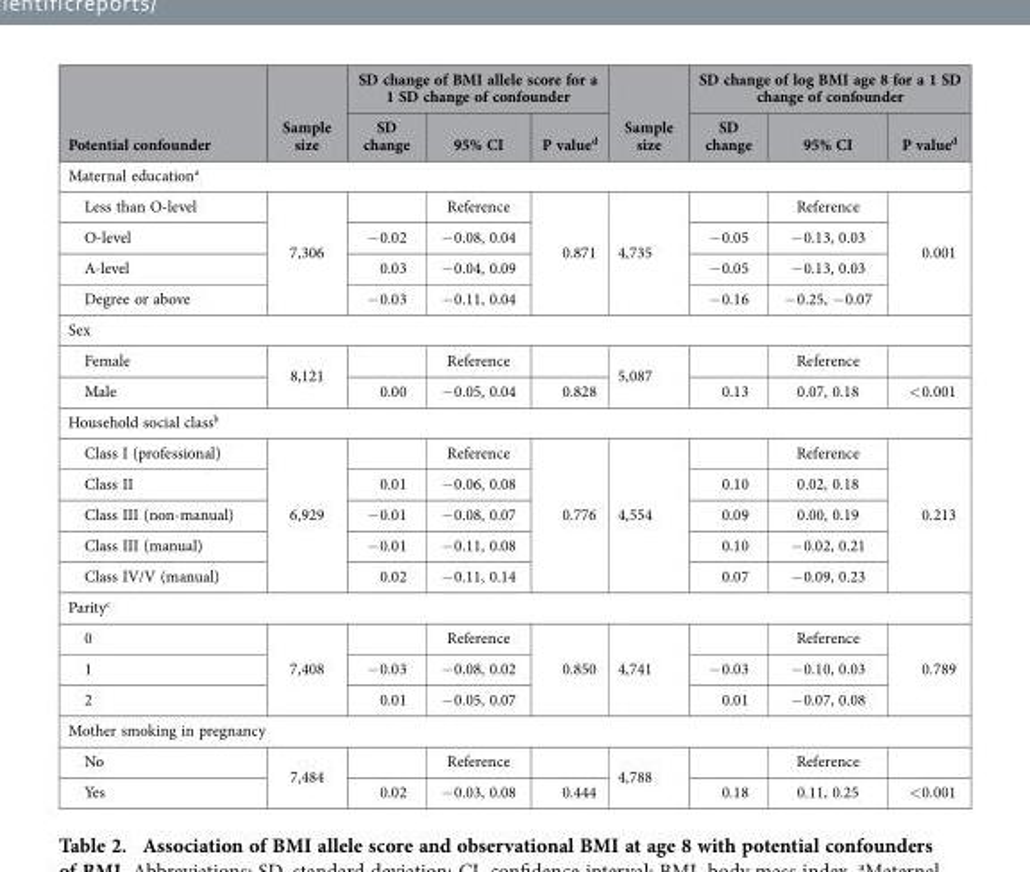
<table><thead><tr><td rowspan="2">Potential confounder</td><td rowspan="2">Sample size</td><td colspan="3">SD change of BMI allele score for a 1 SD change of confounder</td><td rowspan="2">Sample size</td><td colspan="3">SD change of log BMI age 8 for a 1 SD change of confounder</td></tr><tr><td>SD change</td><td>95% CI</td><td>P value<sup>d</sup></td><td>SD change</td><td>95% CI</td><td>P value<sup>d</sup></td></tr></thead><tbody><tr><td colspan="9">Maternal education<sup>a</sup></td></tr><tr><td>Less than O-level</td><td rowspan="4">7,306</td><td></td><td>Reference</td><td rowspan="4">0.871</td><td rowspan="4">4,735</td><td></td><td>Reference</td><td rowspan="4">0.001</td></tr><tr><td>O-level</td><td>− 0.02</td><td>− 0.08, 0.04</td><td>− 0.05</td><td>− 0.13, 0.03</td></tr><tr><td>A-level</td><td>0.03</td><td>− 0.04, 0.09</td><td>− 0.05</td><td>− 0.13, 0.03</td></tr><tr><td>Degree or above</td><td>− 0.03</td><td>− 0.11, 0.04</td><td>− 0.16</td><td>− 0.25, − 0.07</td></tr><tr><td colspan="9">Sex</td></tr><tr><td>Female</td><td rowspan="2">8,121</td><td></td><td>Reference</td><td></td><td rowspan="2">5,087</td><td></td><td>Reference</td><td></td></tr><tr><td>Male</td><td>0.00</td><td>− 0.05, 0.04</td><td>0.828</td><td>0.13</td><td>0.07, 0.18</td><td>&lt; 0.001</td></tr><tr><td colspan="9">Household social class<sup>b</sup></td></tr><tr><td>Class I (professional)</td><td rowspan="5">6,929</td><td></td><td>Reference</td><td rowspan="5">0.776</td><td rowspan="5">4,554</td><td></td><td>Reference</td><td rowspan="5">0.213</td></tr><tr><td>Class II</td><td>0.01</td><td>− 0.06, 0.08</td><td>0.10</td><td>0.02, 0.18</td></tr><tr><td>Class III (non-manual)</td><td>− 0.01</td><td>− 0.08, 0.07</td><td>0.09</td><td>0.00, 0.19</td></tr><tr><td>Class III (manual)</td><td>− 0.01</td><td>− 0.11, 0.08</td><td>0.10</td><td>− 0.02, 0.21</td></tr><tr><td>Class IV/V (manual)</td><td>0.02</td><td>− 0.11, 0.14</td><td>0.07</td><td>− 0.09, 0.23</td></tr><tr><td colspan="9">Parity<sup>c</sup></td></tr><tr><td>0</td><td rowspan="3">7,408</td><td></td><td>Reference</td><td rowspan="3">0.850</td><td rowspan="3">4,741</td><td></td><td>Reference</td><td rowspan="3">0.789</td></tr><tr><td>1</td><td>− 0.03</td><td>− 0.08, 0.02</td><td>− 0.03</td><td>− 0.10, 0.03</td></tr><tr><td>2</td><td>0.01</td><td>− 0.05, 0.07</td><td>0.01</td><td>− 0.07, 0.08</td></tr><tr><td colspan="9">Mother smoking in pregnancy</td></tr><tr><td>No</td><td rowspan="2">7,484</td><td></td><td>Reference</td><td></td><td rowspan="2">4,788</td><td></td><td>Reference</td><td></td></tr><tr><td>Yes</td><td>0.02</td><td>− 0.03, 0.08</td><td>0.444</td><td>0.18</td><td>0.11, 0.25</td><td>&lt;0.001</td></tr></tbody></table>